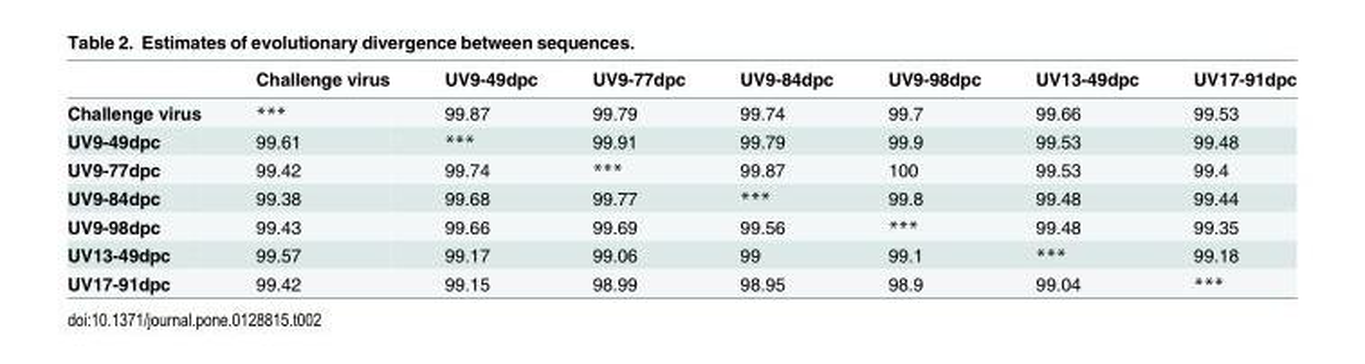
<table><thead><tr><td></td><td>Challenge virus</td><td>UV9-49dpc</td><td>UV9-77dpc</td><td>UV9-84dpc</td><td>UV9-98dpc</td><td>UV13-49dpc</td><td>UV17-91dpc</td></tr></thead><tbody><tr><td>Challenge virus</td><td>***</td><td>99.87</td><td>99.79</td><td>99.74</td><td>99.7</td><td>99.66</td><td>99.53</td></tr><tr><td>UV9-49dpc</td><td>99.61</td><td>***</td><td>99.91</td><td>99.79</td><td>99.9</td><td>99.53</td><td>99.48</td></tr><tr><td>UV9-77dpc</td><td>99.42</td><td>99.74</td><td>***</td><td>99.87</td><td>100</td><td>99.53</td><td>99.4</td></tr><tr><td>UV9-84dpc</td><td>99.38</td><td>99.68</td><td>99.77</td><td>***</td><td>99.8</td><td>99.48</td><td>99.44</td></tr><tr><td>UV9-98dpc</td><td>99.43</td><td>99.66</td><td>99.69</td><td>99.56</td><td>***</td><td>99.48</td><td>99.35</td></tr><tr><td>UV13-49dpc</td><td>99.57</td><td>99.17</td><td>99.06</td><td>99</td><td>99.1</td><td>***</td><td>99.18</td></tr><tr><td>UV17-91dpc</td><td>99.42</td><td>99.15</td><td>98.99</td><td>98.95</td><td>98.9</td><td>99.04</td><td>***</td></tr></tbody></table>